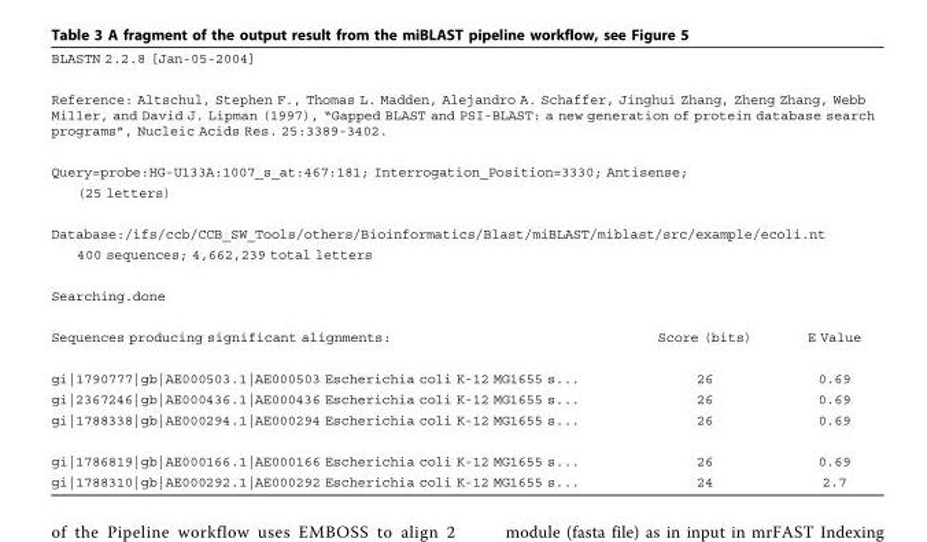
<table><tbody><tr><td colspan="3">BLASTN 2.2.8 [Jan-05-2004]</td></tr><tr><td colspan="3">Reference: Altschul, Stephen F., Thomas L. Madden, Alejandro A. Schaffer, Jinghui Zhang, Zheng Zhang, Webb Miller, and David J. Lipman (1997), “Gapped BLAST and PSI-BLAST: a new generation of protein database search programs”, Nucleic Acids Res. 25:3389-3402.</td></tr><tr><td colspan="3">Query=probe:HG-U133A:1007_s_at:467:181; Interrogation_Position=3330; Antisense;</td></tr><tr><td colspan="3">(25 letters)</td></tr><tr><td colspan="3">Database:/ifs/ccb/CCB_SW_Tools/others/Bioinformatics/Blast/miBLAST/miblast/src/example/ecoli.nt</td></tr><tr><td colspan="3">400 sequences; 4,662,239 total letters</td></tr><tr><td colspan="3">Searching.done</td></tr><tr><td>Sequences producing significant alignments:</td><td>Score (bits)</td><td>E Value</td></tr><tr><td>gi|1790777|gb|AE000503.1|AE000503 Escherichia coli K-12 MG1655 s...</td><td>26</td><td>0.69</td></tr><tr><td>gi|2367246|gb|AE000436.1|AE000436 Escherichia coli K-12 MG1655 s...</td><td>26</td><td>0.69</td></tr><tr><td>gi|1788338|gb|AE000294.1|AE000294 Escherichia coli K-12 MG1655 s...</td><td>26</td><td>0.69</td></tr><tr><td>gi|1786819|gb|AE000166.1|AE000166 Escherichia coli K-12 MG1655 s...</td><td>26</td><td>0.69</td></tr><tr><td>gi|1788310|gb|AE000292.1|AE000292 Escherichia coli K-12 MG1655 s...</td><td>24</td><td>2.7</td></tr></tbody></table>